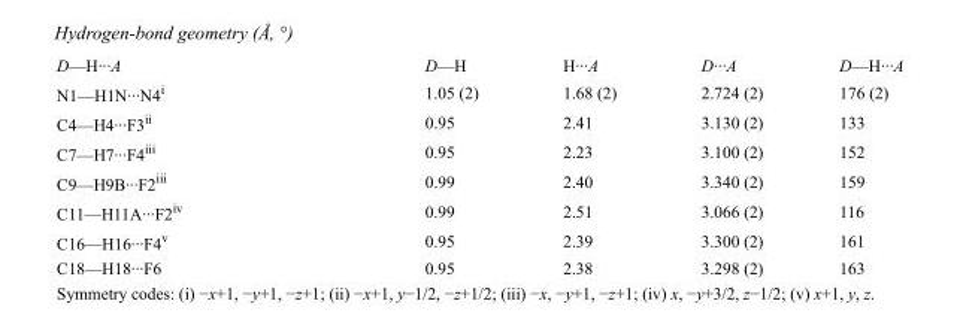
<table><tbody><tr><td>D—H···A</td><td>D—H</td><td>H···A</td><td>D···A</td><td>D—H···A</td></tr><tr><td>N1—H1N···N4<sup>i</sup></td><td>1.05 (2)</td><td>1.68 (2)</td><td>2.724 (2)</td><td>176 (2)</td></tr><tr><td>C4—H4···F3<sup>ii</sup></td><td>0.95</td><td>2.41</td><td>3.130 (2)</td><td>133</td></tr><tr><td>C7—H7···F4<sup>iii</sup></td><td>0.95</td><td>2.23</td><td>3.100 (2)</td><td>152</td></tr><tr><td>C9—H9B···F2<sup>iii</sup></td><td>0.99</td><td>2.40</td><td>3.340 (2)</td><td>159</td></tr><tr><td>C11—H11A···F2<sup>iv</sup></td><td>0.99</td><td>2.51</td><td>3.066 (2)</td><td>116</td></tr><tr><td>C16—H16···F4<sup>v</sup></td><td>0.95</td><td>2.39</td><td>3.300 (2)</td><td>161</td></tr><tr><td>C18—H18···F6</td><td>0.95</td><td>2.38</td><td>3.298 (2)</td><td>163</td></tr></tbody></table>